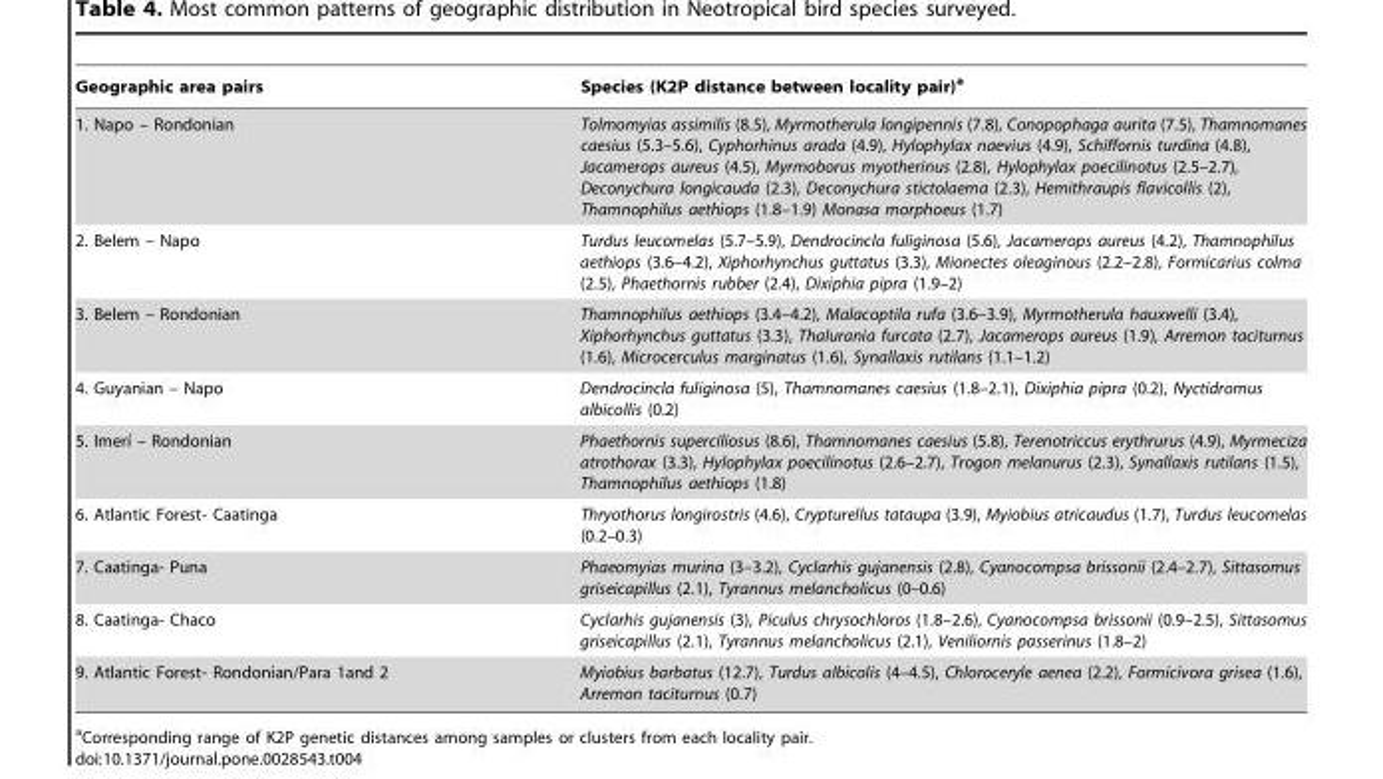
<table><thead><tr><td>Geographic area pairs</td><td>Species (K2P distance between locality pair)<sup>a</sup></td></tr></thead><tbody><tr><td>1. Napo – Rondonian</td><td>Tolmomyias assimilis (8.5), Myrmotherula longipennis (7.8), Conopophaga aurita (7.5), Thamnomanes caesius (5.3–5.6), Cyphorhinus arada (4.9), Hylophylax naevius (4.9), Schiffornis turdina (4.8), Jacamerops aureus (4.5), Myrmoborus myotherinus (2.8), Hylophylax poecilinotus (2.5–2.7), Deconychura longicauda (2.3), Deconychura stictolaema (2.3), Hemithraupis flavicollis (2), Thamnophilus aethiops (1.8–1.9) Monasa morphoeus (1.7)</td></tr><tr><td>2. Belem – Napo</td><td>Turdus leucomelas (5.7–5.9), Dendrocincla fuliginosa (5.6), Jacamerops aureus (4.2), Thamnophilus aethiops (3.6–4.2), Xiphorhynchus guttatus (3.3), Mionectes oleaginous (2.2–2.8), Formicarius colma (2.5), Phaethornis rubber (2.4), Dixiphia pipra (1.9–2)</td></tr><tr><td>3. Belem – Rondonian</td><td>Thamnophilus aethiops (3.4–4.2), Malacoptila rufa (3.6–3.9), Myrmotherula hauxwelli (3.4), Xiphorhynchus guttatus (3.3), Thalurania furcata (2.7), Jacamerops aureus (1.9), Arremon taciturnus (1.6), Microcerculus marginatus (1.6), Synallaxis rutilans (1.1–1.2)</td></tr><tr><td>4. Guyanian – Napo</td><td>Dendrocincla fuliginosa (5), Thamnomanes caesius (1.8–2.1), Dixiphia pipra (0.2), Nyctidromus albicollis (0.2)</td></tr><tr><td>5. Imerı´ – Rondonian</td><td>Phaethornis superciliosus (8.6), Thamnomanes caesius (5.8), Terenotriccus erythrurus (4.9), Myrmeciza atrothorax (3.3), Hylophylax poecilinotus (2.6–2.7), Trogon melanurus (2.3), Synallaxis rutilans (1.5), Thamnophilus aethiops (1.8)</td></tr><tr><td>6. Atlantic Forest- Caatinga</td><td>Thryothorus longirostris (4.6), Crypturellus tataupa (3.9), Myiobius atricaudus (1.7), Turdus leucomelas (0.2–0.3)</td></tr><tr><td>7. Caatinga- Puna</td><td>Phaeomyias murina (3–3.2), Cyclarhis gujanensis (2.8), Cyanocompsa brissonii (2.4–2.7), Sittasomus griseicapillus (2.1), Tyrannus melancholicus (0–0.6)</td></tr><tr><td>8. Caatinga- Chaco</td><td>Cyclarhis gujanensis (3), Piculus chrysochloros (1.8–2.6), Cyanocompsa brissonii (0.9–2.5), Sittasomus griseicapillus (2.1), Tyrannus melancholicus (2.1), Veniliornis passerinus (1.8–2)</td></tr><tr><td>9. Atlantic Forest- Rondonian/Para 1and 2</td><td>Myiobius barbatus (12.7), Turdus albicolis (4–4.5), Chloroceryle aenea (2.2), Formicivora grisea (1.6), Arremon taciturnus (0.7)</td></tr></tbody></table>